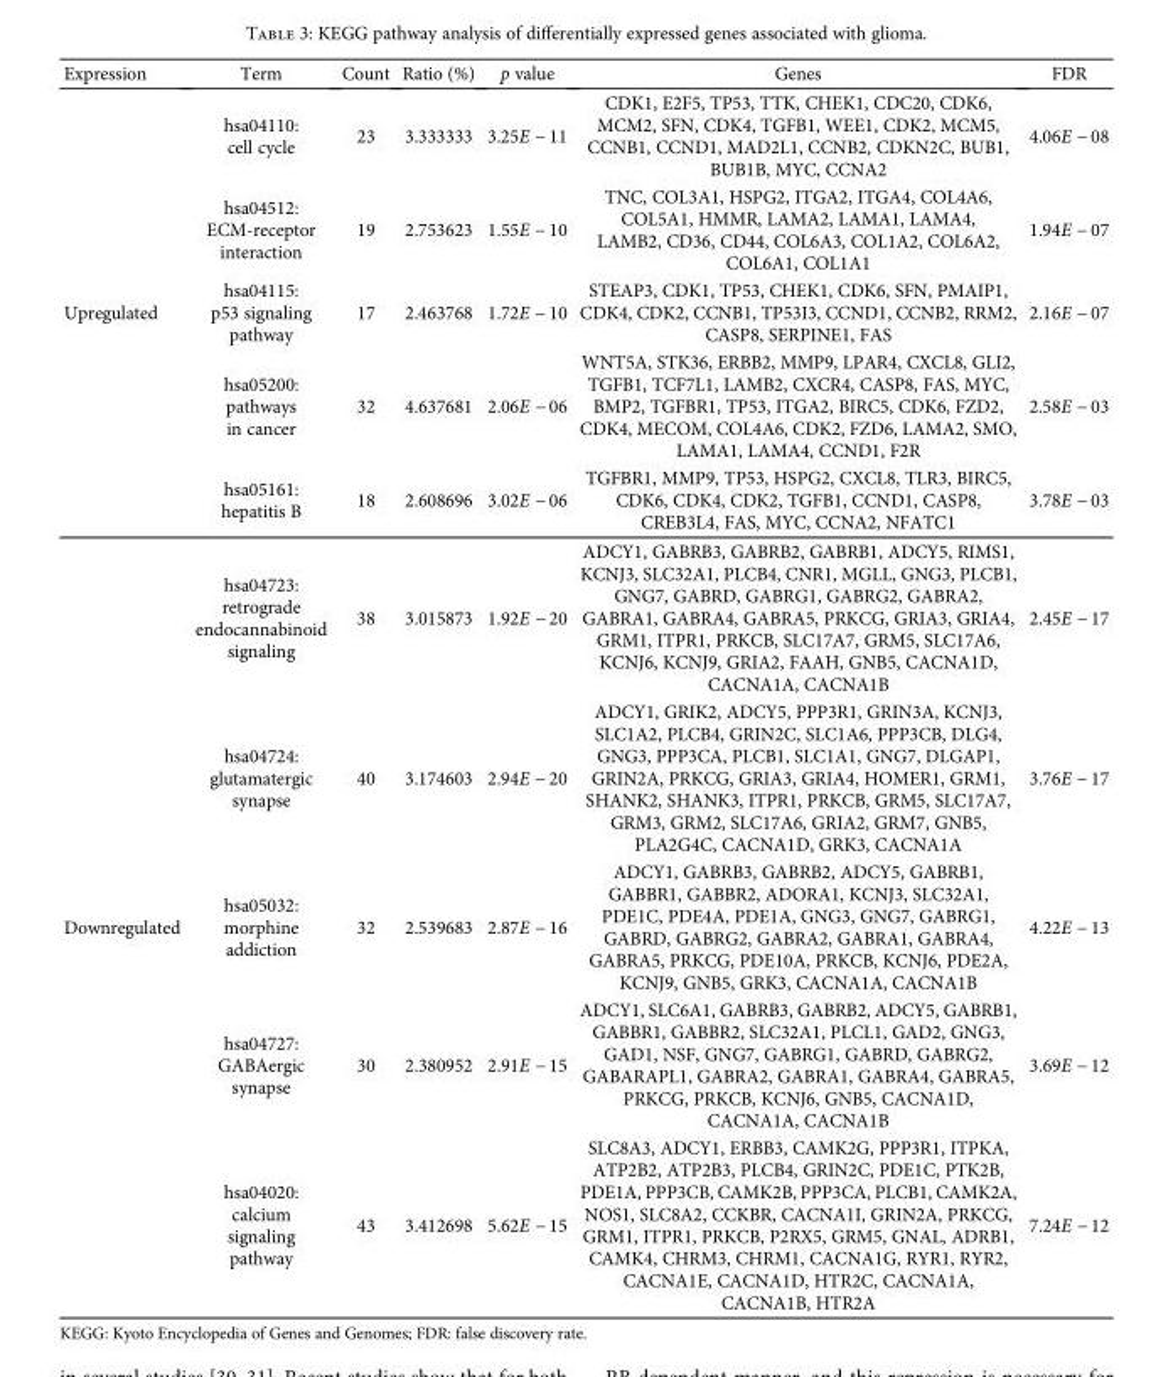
<table><thead><tr><td>Expression</td><td>Term</td><td>Count</td><td>Ratio (%)</td><td>p value</td><td>Genes</td><td>FDR</td></tr></thead><tbody><tr><td rowspan="5">Upregulated</td><td>hsa04110: cell cycle</td><td>23</td><td>3.333333</td><td>3.25E − 11</td><td>CDK1, E2F5, TP53, TTK, CHEK1, CDC20, CDK6, MCM2, SFN, CDK4, TGFB1, WEE1, CDK2, MCM5, CCNB1, CCND1, MAD2L1, CCNB2, CDKN2C, BUB1, BUB1B, MYC, CCNA2</td><td>4.06E − 08</td></tr><tr><td>hsa04512: ECM-receptor interaction</td><td>19</td><td>2.753623</td><td>1.55E − 10</td><td>TNC, COL3A1, HSPG2, ITGA2, ITGA4, COL4A6, COL5A1, HMMR, LAMA2, LAMA1, LAMA4, LAMB2, CD36, CD44, COL6A3, COL1A2, COL6A2, COL6A1, COL1A1</td><td>1.94E − 07</td></tr><tr><td>hsa04115: p53 signaling pathway</td><td>17</td><td>2.463768</td><td>1.72E − 10</td><td>STEAP3, CDK1, TP53, CHEK1, CDK6, SFN, PMAIP1, CDK4, CDK2, CCNB1, TP53I3, CCND1, CCNB2, RRM2, CASP8, SERPINE1, FAS</td><td>2.16E − 07</td></tr><tr><td>hsa05200: pathways in cancer</td><td>32</td><td>4.637681</td><td>2.06E − 06</td><td>WNT5A, STK36, ERBB2, MMP9, LPAR4, CXCL8, GLI2, TGFB1, TCF7L1, LAMB2, CXCR4, CASP8, FAS, MYC, BMP2, TGFBR1, TP53, ITGA2, BIRC5, CDK6, FZD2, CDK4, MECOM, COL4A6, CDK2, FZD6, LAMA2, SMO, LAMA1, LAMA4, CCND1, F2R</td><td>2.58E − 03</td></tr><tr><td>hsa05161: hepatitis B</td><td>18</td><td>2.608696</td><td>3.02E − 06</td><td>TGFBR1, MMP9, TP53, HSPG2, CXCL8, TLR3, BIRC5, CDK6, CDK4, CDK2, TGFB1, CCND1, CASP8, CREB3L4, FAS, MYC, CCNA2, NFATC1</td><td>3.78E − 03</td></tr><tr><td rowspan="5">Downregulated</td><td>hsa04723: retrograde endocannabinoid signaling</td><td>38</td><td>3.015873</td><td>1.92E − 20</td><td>ADCY1, GABRB3, GABRB2, GABRB1, ADCY5, RIMS1, KCNJ3, SLC32A1, PLCB4, CNR1, MGLL, GNG3, PLCB1, GNG7, GABRD, GABRG1, GABRG2, GABRA2, GABRA1, GABRA4, GABRA5, PRKCG, GRIA3, GRIA4, GRM1, ITPR1, PRKCB, SLC17A7, GRM5, SLC17A6, KCNJ6, KCNJ9, GRIA2, FAAH, GNB5, CACNA1D, CACNA1A, CACNA1B</td><td>2.45E − 17</td></tr><tr><td>hsa04724: glutamatergic synapse</td><td>40</td><td>3.174603</td><td>2.94E − 20</td><td>ADCY1, GRIK2, ADCY5, PPP3R1, GRIN3A, KCNJ3, SLC1A2, PLCB4, GRIN2C, SLC1A6, PPP3CB, DLG4, GNG3, PPP3CA, PLCB1, SLC1A1, GNG7, DLGAP1, GRIN2A, PRKCG, GRIA3, GRIA4, HOMER1, GRM1, SHANK2, SHANK3, ITPR1, PRKCB, GRM5, SLC17A7, GRM3, GRM2, SLC17A6, GRIA2, GRM7, GNB5, PLA2G4C, CACNA1D, GRK3, CACNA1A</td><td>3.76E − 17</td></tr><tr><td>hsa05032: morphine addiction</td><td>32</td><td>2.539683</td><td>2.87E − 16</td><td>ADCY1, GABRB3, GABRB2, ADCY5, GABRB1, GABBR1, GABBR2, ADORA1, KCNJ3, SLC32A1, PDE1C, PDE4A, PDE1A, GNG3, GNG7, GABRG1, GABRD, GABRG2, GABRA2, GABRA1, GABRA4, GABRA5, PRKCG, PDE10A, PRKCB, KCNJ6, PDE2A, KCNJ9, GNB5, GRK3, CACNA1A, CACNA1B</td><td>4.22E − 13</td></tr><tr><td>hsa04727: GABAergic synapse</td><td>30</td><td>2.380952</td><td>2.91E − 15</td><td>ADCY1, SLC6A1, GABRB3, GABRB2, ADCY5, GABRB1, GABBR1, GABBR2, SLC32A1, PLCL1, GAD2, GNG3, GAD1, NSF, GNG7, GABRG1, GABRD, GABRG2, GABARAPL1, GABRA2, GABRA1, GABRA4, GABRA5, PRKCG, PRKCB, KCNJ6, GNB5, CACNA1D, CACNA1A, CACNA1B</td><td>3.69E − 12</td></tr><tr><td>hsa04020: calcium signaling pathway</td><td>43</td><td>3.412698</td><td>5.62E − 15</td><td>SLC8A3, ADCY1, ERBB3, CAMK2G, PPP3R1, ITPKA, ATP2B2, ATP2B3, PLCB4, GRIN2C, PDE1C, PTK2B, PDE1A, PPP3CB, CAMK2B, PPP3CA, PLCB1, CAMK2A, NOS1, SLC8A2, CCKBR, CACNA1I, GRIN2A, PRKCG, GRM1, ITPR1, PRKCB, P2RX5, GRM5, GNAL, ADRB1, CAMK4, CHRM3, CHRM1, CACNA1G, RYR1, RYR2, CACNA1E, CACNA1D, HTR2C, CACNA1A, CACNA1B, HTR2A</td><td>7.24E − 12</td></tr></tbody></table>